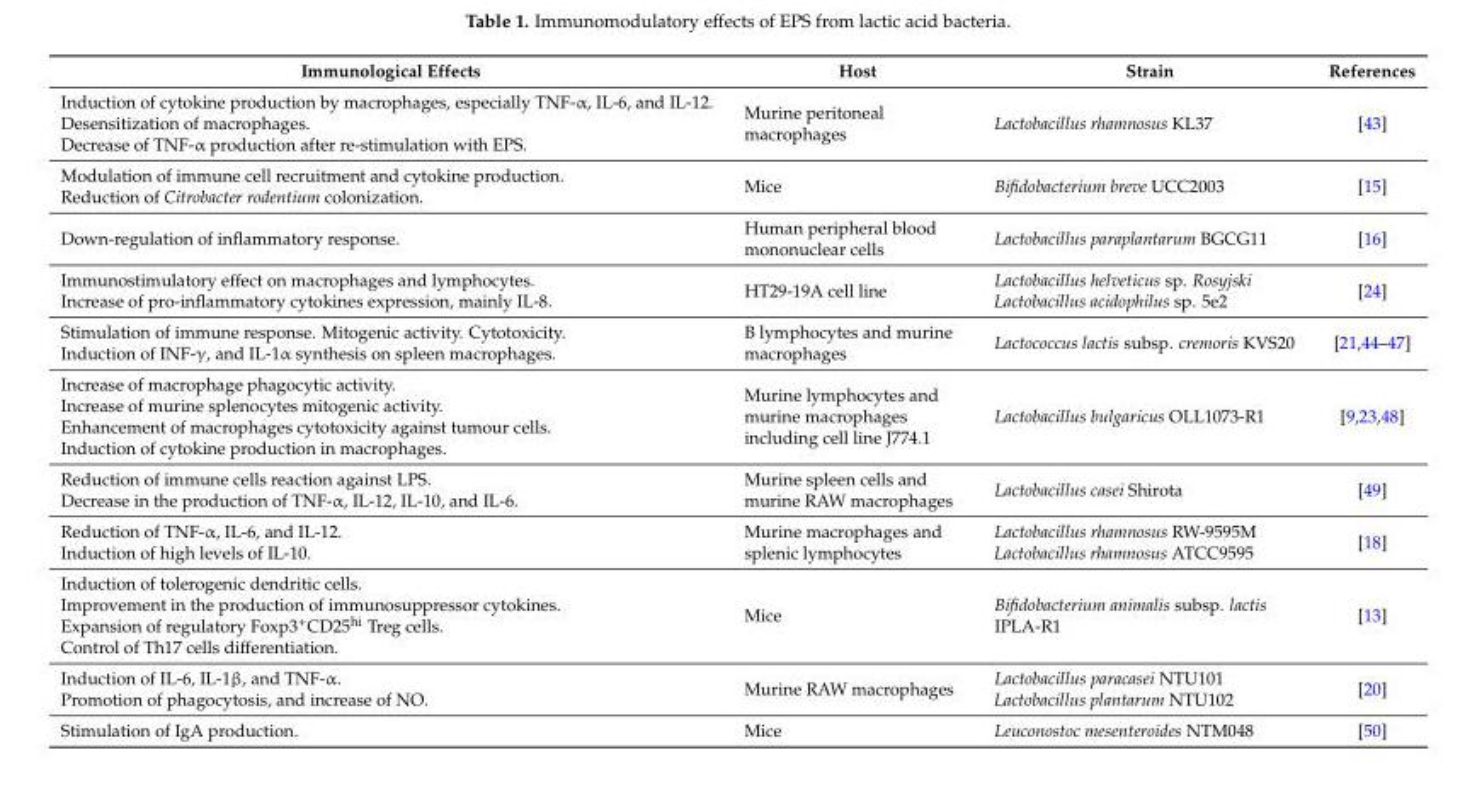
<table><thead><tr><td>Immunological Effects</td><td>Host</td><td>Strain</td><td>References</td></tr></thead><tbody><tr><td>Induction of cytokine production by macrophages, especially TNF-α, IL-6, and IL-12. Desensitization of macrophages. Decrease of TNF-α production after re-stimulation with EPS.</td><td>Murine peritoneal macrophages</td><td>Lactobacillus rhamnosus KL37</td><td>[43]</td></tr><tr><td>Modulation of immune cell recruitment and cytokine production. Reduction of Citrobacter rodentium colonization.</td><td>Mice</td><td>Bifidobacterium breve UCC2003</td><td>[15]</td></tr><tr><td>Down-regulation of inflammatory response.</td><td>Human peripheral blood mononuclear cells</td><td>Lactobacillus paraplantarum BGCG11</td><td>[16]</td></tr><tr><td>Immunostimulatory effect on macrophages and lymphocytes. Increase of pro-inflammatory cytokines expression, mainly IL-8.</td><td>HT29-19A cell line</td><td>Lactobacillus helveticus sp. Rosyjski Lactobacillus acidophilus sp. 5e2</td><td>[24]</td></tr><tr><td>Stimulation of immune response. Mitogenic activity. Cytotoxicity. Induction of INF-γ, and IL-1α synthesis on spleen macrophages.</td><td>B lymphocytes and murine macrophages</td><td>Lactococcus lactis subsp. cremoris KVS20</td><td>[21,44–47]</td></tr><tr><td>Increase of macrophage phagocytic activity. Increase of murine splenocytes mitogenic activity. Enhancement of macrophages cytotoxicity against tumour cells. Induction of cytokine production in macrophages.</td><td>Murine lymphocytes and murine macrophages including cell line J774.1</td><td>Lactobacillus bulgaricus OLL1073-R1</td><td>[9,23,48]</td></tr><tr><td>Reduction of immune cells reaction against LPS. Decrease in the production of TNF-α, IL-12, IL-10, and IL-6.</td><td>Murine spleen cells and murine RAW macrophages</td><td>Lactobacillus casei Shirota</td><td>[49]</td></tr><tr><td>Reduction of TNF-α, IL-6, and IL-12. Induction of high levels of IL-10.</td><td>Murine macrophages and splenic lymphocytes</td><td>Lactobacillus rhamnosus RW-9595M Lactobacillus rhamnosus ATCC9595</td><td>[18]</td></tr><tr><td>Induction of tolerogenic dendritic cells. Improvement in the production of immunosuppressor cytokines. Expansion of regulatory Foxp3<sup>+</sup>CD25<sup>hi</sup> Treg cells. Control of Th17 cells differentiation.</td><td>Mice</td><td>Bifidobacterium animalis subsp. lactis IPLA-R1</td><td>[13]</td></tr><tr><td>Induction of IL-6, IL-1β, and TNF-α. Promotion of phagocytosis, and increase of NO.</td><td>Murine RAW macrophages</td><td>Lactobacillus paracasei NTU101 Lactobacillus plantarum NTU102</td><td>[20]</td></tr><tr><td>Stimulation of IgA production.</td><td>Mice</td><td>Leuconostoc mesenteroides NTM048</td><td>[50]</td></tr></tbody></table>